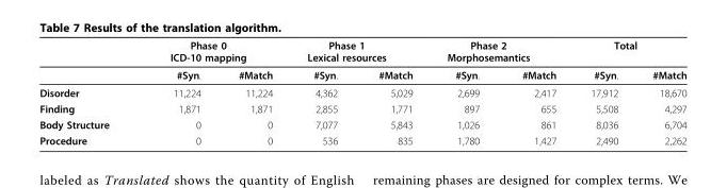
<table><thead><tr><td rowspan="2"></td><td colspan="2">Phase 0 ICD-10 mapping</td><td colspan="2">Phase 1 Lexical resources</td><td colspan="2">Phase 2 Morphosemantics</td><td colspan="2">Total</td></tr><tr><td>#Syn.</td><td>#Match</td><td>#Syn.</td><td>#Match</td><td>#Syn.</td><td>#Match</td><td>#Syn.</td><td>#Match</td></tr></thead><tbody><tr><td>Disorder</td><td>11,224</td><td>11,224</td><td>4,362</td><td>5,029</td><td>2,699</td><td>2,417</td><td>17,912</td><td>18,670</td></tr><tr><td>Finding</td><td>1,871</td><td>1,871</td><td>2,855</td><td>1,771</td><td>897</td><td>655</td><td>5,508</td><td>4,297</td></tr><tr><td>Body Structure</td><td>0</td><td>0</td><td>7,077</td><td>5,843</td><td>1,026</td><td>861</td><td>8,036</td><td>6,704</td></tr><tr><td>Procedure</td><td>0</td><td>0</td><td>536</td><td>835</td><td>1,780</td><td>1,427</td><td>2,490</td><td>2,262</td></tr></tbody></table>